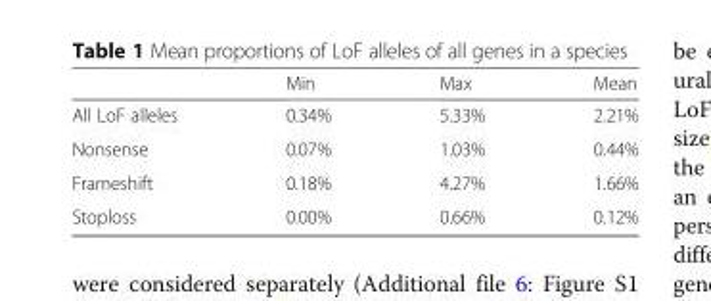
<table><thead><tr><td></td><td>Min</td><td>Max</td><td>Mean</td></tr></thead><tbody><tr><td>All LoF alleles</td><td>0.34%</td><td>5.33%</td><td>2.21%</td></tr><tr><td>Nonsense</td><td>0.07%</td><td>1.03%</td><td>0.44%</td></tr><tr><td>Frameshift</td><td>0.18%</td><td>4.27%</td><td>1.66%</td></tr><tr><td>Stoploss</td><td>0.00%</td><td>0.66%</td><td>0.12%</td></tr></tbody></table>